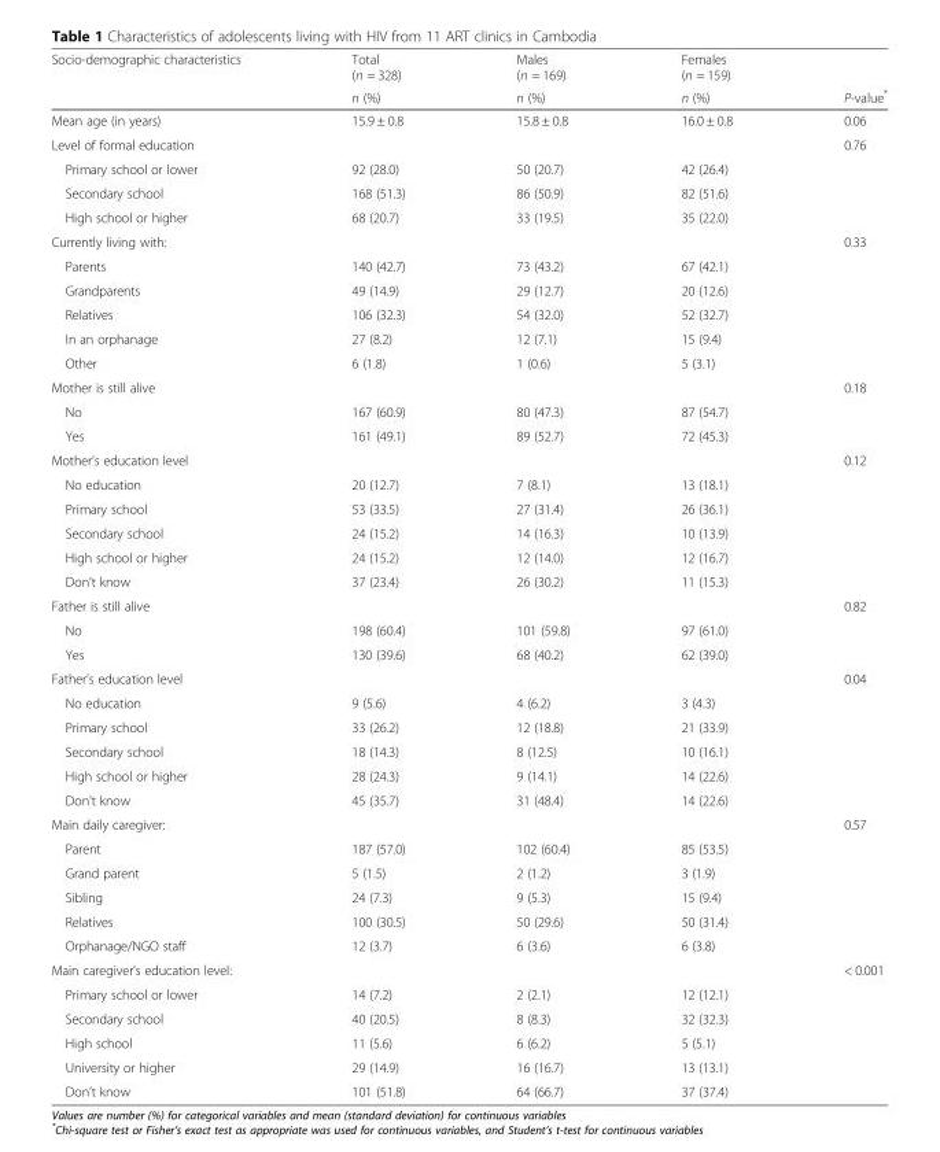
<table><thead><tr><td rowspan="2">Socio-demographic characteristics</td><td rowspan="2">Total (n = 328) n (%)</td><td rowspan="2">Males (n = 169) n (%)</td><td rowspan="2">Females (n = 159) n (%)</td><td rowspan="2">P-value*</td></tr><tr></tr></thead><tbody><tr><td>Mean age (in years)</td><td>15.9 ± 0.8</td><td>15.8 ± 0.8</td><td>16.0 ± 0.8</td><td>0.06</td></tr><tr><td>Level of formal education</td><td></td><td></td><td></td><td>0.76</td></tr><tr><td>Primary school or lower</td><td>92 (28.0)</td><td>50 (20.7)</td><td>42 (26.4)</td><td></td></tr><tr><td>Secondary school</td><td>168 (51.3)</td><td>86 (50.9)</td><td>82 (51.6)</td><td></td></tr><tr><td>High school or higher</td><td>68 (20.7)</td><td>33 (19.5)</td><td>35 (22.0)</td><td></td></tr><tr><td>Currently living with:</td><td></td><td></td><td></td><td>0.33</td></tr><tr><td>Parents</td><td>140 (42.7)</td><td>73 (43.2)</td><td>67 (42.1)</td><td></td></tr><tr><td>Grandparents</td><td>49 (14.9)</td><td>29 (12.7)</td><td>20 (12.6)</td><td></td></tr><tr><td>Relatives</td><td>106 (32.3)</td><td>54 (32.0)</td><td>52 (32.7)</td><td></td></tr><tr><td>In an orphanage</td><td>27 (8.2)</td><td>12 (7.1)</td><td>15 (9.4)</td><td></td></tr><tr><td>Other</td><td>6 (1.8)</td><td>1 (0.6)</td><td>5 (3.1)</td><td></td></tr><tr><td>Mother is still alive</td><td></td><td></td><td></td><td>0.18</td></tr><tr><td>No</td><td>167 (60.9)</td><td>80 (47.3)</td><td>87 (54.7)</td><td></td></tr><tr><td>Yes</td><td>161 (49.1)</td><td>89 (52.7)</td><td>72 (45.3)</td><td></td></tr><tr><td>Mother’s education level</td><td></td><td></td><td></td><td>0.12</td></tr><tr><td>No education</td><td>20 (12.7)</td><td>7 (8.1)</td><td>13 (18.1)</td><td></td></tr><tr><td>Primary school</td><td>53 (33.5)</td><td>27 (31.4)</td><td>26 (36.1)</td><td></td></tr><tr><td>Secondary school</td><td>24 (15.2)</td><td>14 (16.3)</td><td>10 (13.9)</td><td></td></tr><tr><td>High school or higher</td><td>24 (15.2)</td><td>12 (14.0)</td><td>12 (16.7)</td><td></td></tr><tr><td>Don’t know</td><td>37 (23.4)</td><td>26 (30.2)</td><td>11 (15.3)</td><td></td></tr><tr><td>Father is still alive</td><td></td><td></td><td></td><td>0.82</td></tr><tr><td>No</td><td>198 (60.4)</td><td>101 (59.8)</td><td>97 (61.0)</td><td></td></tr><tr><td>Yes</td><td>130 (39.6)</td><td>68 (40.2)</td><td>62 (39.0)</td><td></td></tr><tr><td>Father’s education level</td><td></td><td></td><td></td><td>0.04</td></tr><tr><td>No education</td><td>9 (5.6)</td><td>4 (6.2)</td><td>3 (4.3)</td><td></td></tr><tr><td>Primary school</td><td>33 (26.2)</td><td>12 (18.8)</td><td>21 (33.9)</td><td></td></tr><tr><td>Secondary school</td><td>18 (14.3)</td><td>8 (12.5)</td><td>10 (16.1)</td><td></td></tr><tr><td>High school or higher</td><td>28 (24.3)</td><td>9 (14.1)</td><td>14 (22.6)</td><td></td></tr><tr><td>Don’t know</td><td>45 (35.7)</td><td>31 (48.4)</td><td>14 (22.6)</td><td></td></tr><tr><td>Main daily caregiver:</td><td></td><td></td><td></td><td>0.57</td></tr><tr><td>Parent</td><td>187 (57.0)</td><td>102 (60.4)</td><td>85 (53.5)</td><td></td></tr><tr><td>Grand parent</td><td>5 (1.5)</td><td>2 (1.2)</td><td>3 (1.9)</td><td></td></tr><tr><td>Sibling</td><td>24 (7.3)</td><td>9 (5.3)</td><td>15 (9.4)</td><td></td></tr><tr><td>Relatives</td><td>100 (30.5)</td><td>50 (29.6)</td><td>50 (31.4)</td><td></td></tr><tr><td>Orphanage/NGO staff</td><td>12 (3.7)</td><td>6 (3.6)</td><td>6 (3.8)</td><td></td></tr><tr><td colspan="4">Main caregiver’s education level:</td><td>&lt; 0.001</td></tr><tr><td>Primary school or lower</td><td>14 (7.2)</td><td>2 (2.1)</td><td>12 (12.1)</td><td></td></tr><tr><td>Secondary school</td><td>40 (20.5)</td><td>8 (8.3)</td><td>32 (32.3)</td><td></td></tr><tr><td>High school</td><td>11 (5.6)</td><td>6 (6.2)</td><td>5 (5.1)</td><td></td></tr><tr><td>University or higher</td><td>29 (14.9)</td><td>16 (16.7)</td><td>13 (13.1)</td><td></td></tr><tr><td>Don’t know</td><td>101 (51.8)</td><td>64 (66.7)</td><td>37 (37.4)</td><td></td></tr></tbody></table>